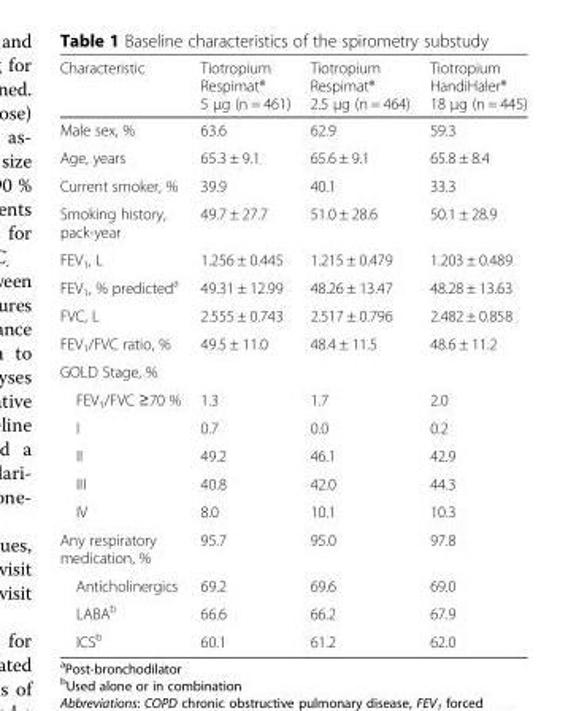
<table><thead><tr><td>Characteristic</td><td>Tiotropium Respimat® 5 μg (n = 461)</td><td>Tiotropium Respimat® 2.5 μg (n = 464)</td><td>Tiotropium HandiHaler® 18 μg (n = 445)</td></tr></thead><tbody><tr><td>Male sex, %</td><td>63.6</td><td>62.9</td><td>59.3</td></tr><tr><td>Age, years</td><td>65.3 ± 9.1</td><td>65.6 ± 9.1</td><td>65.8 ± 8.4</td></tr><tr><td>Current smoker, %</td><td>39.9</td><td>40.1</td><td>33.3</td></tr><tr><td>Smoking history, pack-year</td><td>49.7 ± 27.7</td><td>51.0 ± 28.6</td><td>50.1 ± 28.9</td></tr><tr><td>FEV<sub>1</sub>, L</td><td>1.256 ± 0.445</td><td>1.215 ± 0.479</td><td>1.203 ± 0.489</td></tr><tr><td>FEV<sub>1</sub>, % predicted<sup>a</sup></td><td>49.31 ± 12.99</td><td>48.26 ± 13.47</td><td>48.28 ± 13.63</td></tr><tr><td>FVC, L</td><td>2.555 ± 0.743</td><td>2.517 ± 0.796</td><td>2.482 ± 0.858</td></tr><tr><td>FEV<sub>1</sub>/FVC ratio, %</td><td>49.5 ± 11.0</td><td>48.4 ± 11.5</td><td>48.6 ± 11.2</td></tr><tr><td colspan="4">GOLD Stage, %</td></tr><tr><td>FEV<sub>1</sub>/FVC ≥70 %</td><td>1.3</td><td>1.7</td><td>2.0</td></tr><tr><td>I</td><td>0.7</td><td>0.0</td><td>0.2</td></tr><tr><td>II</td><td>49.2</td><td>46.1</td><td>42.9</td></tr><tr><td>III</td><td>40.8</td><td>42.0</td><td>44.3</td></tr><tr><td>IV</td><td>8.0</td><td>10.1</td><td>10.3</td></tr><tr><td>Any respiratory medication, %</td><td>95.7</td><td>95.0</td><td>97.8</td></tr><tr><td>Anticholinergics</td><td>69.2</td><td>69.6</td><td>69.0</td></tr><tr><td>LABA<sup>b</sup></td><td>66.6</td><td>66.2</td><td>67.9</td></tr><tr><td>ICS<sup>b</sup></td><td>60.1</td><td>61.2</td><td>62.0</td></tr></tbody></table>